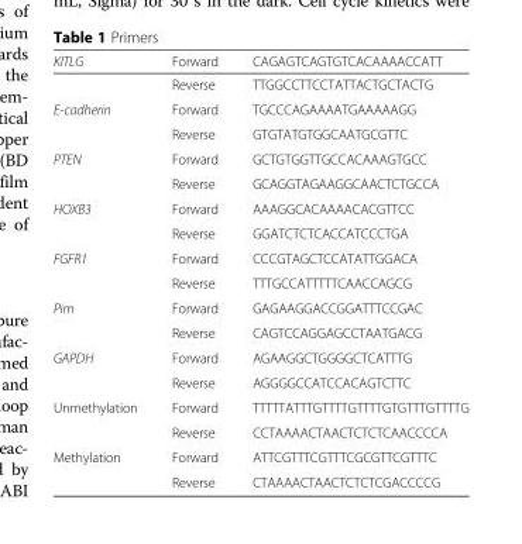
<table><thead><tr><td>KITLG</td><td>Forward</td><td>CAGAGTCAGTGTCACAAAACCATT</td></tr></thead><tbody><tr><td></td><td>Reverse</td><td>TTGGCCTTCCTATTACTGCTACTG</td></tr><tr><td rowspan="2">E-cadherin</td><td>Forward</td><td>TGCCCAGAAAATGAAAAAGG</td></tr><tr><td>Reverse</td><td>GTGTATGTGGCAATGCGTTC</td></tr><tr><td rowspan="2">PTEN</td><td>Forward</td><td>GCTGTGGTTGCCACAAAGTGCC</td></tr><tr><td>Reverse</td><td>GCAGGTAGAAGGCAACTCTGCCA</td></tr><tr><td rowspan="2">HOXB3</td><td>Forward</td><td>AAAGGCACAAAACACGTTCC</td></tr><tr><td>Reverse</td><td>GGATCTCTCACCATCCCTGA</td></tr><tr><td rowspan="2">FGFR1</td><td>Forward</td><td>CCCGTAGCTCCATATTGGACA</td></tr><tr><td>Reverse</td><td>TTTGCCATTTTTCAACCAGCG</td></tr><tr><td rowspan="2">Pim</td><td>Forward</td><td>GAGAAGGACCGGATTTCCGAC</td></tr><tr><td>Reverse</td><td>CAGTCCAGGAGCCTAATGACG</td></tr><tr><td rowspan="2">GAPDH</td><td>Forward</td><td>AGAAGGCTGGGGCTCATTTG</td></tr><tr><td>Reverse</td><td>AGGGGCCATCCACAGTCTTC</td></tr><tr><td rowspan="2">Unmethylation</td><td>Forward</td><td>TTTTTATTTGTTTTGTTTTGTGTTTGTTTTG</td></tr><tr><td>Reverse</td><td>CCTAAAACTAACTCTCTCAACCCCA</td></tr><tr><td rowspan="2">Methylation</td><td>Forward</td><td>ATTCGTTTCGTTTCGCGTTCGTTTC</td></tr><tr><td>Reverse</td><td>CTAAAACTAACTCTCTCGACCCCG</td></tr></tbody></table>